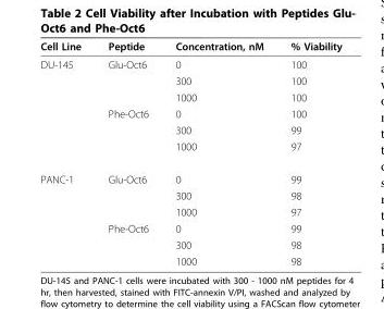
<table><thead><tr><td>Cell Line</td><td>Peptide</td><td>Concentration, nM</td><td>% Viability</td></tr></thead><tbody><tr><td rowspan="6">DU-145</td><td>Glu-Oct6</td><td>0</td><td>100</td></tr><tr><td></td><td>300</td><td>100</td></tr><tr><td></td><td>1000</td><td>100</td></tr><tr><td>Phe-Oct6</td><td>0</td><td>100</td></tr><tr><td></td><td>300</td><td>99</td></tr><tr><td></td><td>1000</td><td>97</td></tr><tr><td rowspan="6">PANC-1</td><td>Glu-Oct6</td><td>0</td><td>99</td></tr><tr><td></td><td>300</td><td>98</td></tr><tr><td></td><td>1000</td><td>97</td></tr><tr><td>Phe-Oct6</td><td>0</td><td>99</td></tr><tr><td></td><td>300</td><td>98</td></tr><tr><td></td><td>1000</td><td>98</td></tr></tbody></table>